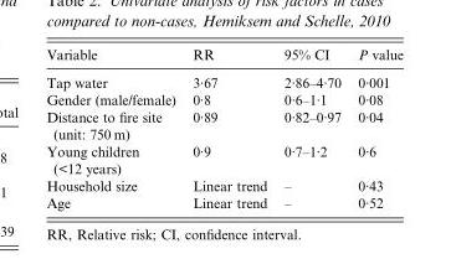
<table><thead><tr><td>Variable</td><td>RR</td><td>95% CI</td><td>P value</td></tr></thead><tbody><tr><td>Tap water</td><td>3·67</td><td>2·86–4·70</td><td>0·001</td></tr><tr><td>Gender (male/female)</td><td>0·8</td><td>0·6–1·1</td><td>0·08</td></tr><tr><td>Distance to fire site (unit: 750 m)</td><td>0·89</td><td>0·82–0·97</td><td>0·04</td></tr><tr><td>Young children (&lt;12 years)</td><td>0·9</td><td>0·7–1·2</td><td>0·6</td></tr><tr><td>Household size</td><td>Linear trend</td><td>–</td><td>0·43</td></tr><tr><td>Age</td><td>Linear trend</td><td>–</td><td>0·52</td></tr></tbody></table>